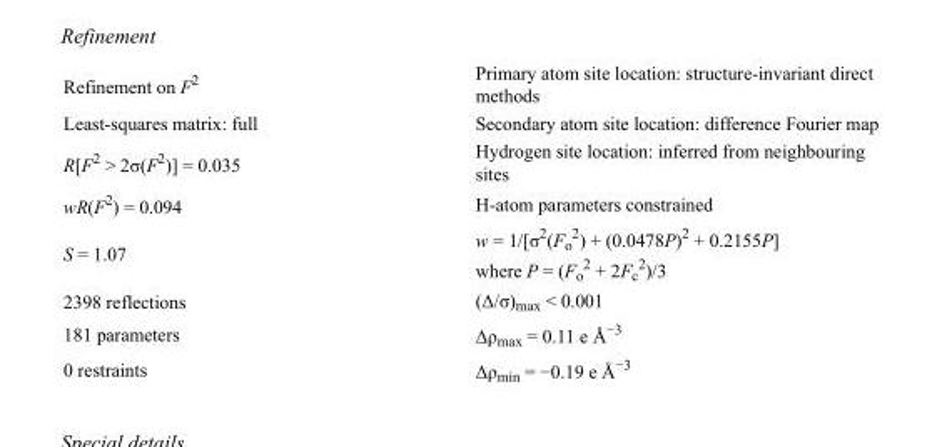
<table><tbody><tr><td>Refinement on F<sup>2</sup></td><td>Primary atom site location: structure-invariant direct methods</td></tr><tr><td>Least-squares matrix: full</td><td>Secondary atom site location: difference Fourier map</td></tr><tr><td>R[F<sup>2</sup> &gt; 2σ(F<sup>2</sup>)] = 0.035</td><td>Hydrogen site location: inferred from neighbouring sites</td></tr><tr><td>wR(F<sup>2</sup>) = 0.094</td><td>H-atom parameters constrained</td></tr><tr><td>S = 1.07</td><td>w = 1/[σ<sup>2</sup>(F<sub>o</sub> <sup>2</sup>) + (0.0478P)<sup>2</sup> + 0.2155P] where P = (F<sub>o</sub> <sup>2</sup> + 2F<sub>c</sub> <sup>2</sup>)/3</td></tr><tr><td>2398 reflections</td><td>(Δ/σ)<sub>max</sub> &lt; 0.001</td></tr><tr><td>181 parameters</td><td>Δρ<sub>max</sub> = 0.11 e Å<sup>−3</sup></td></tr><tr><td>0 restraints</td><td>Δρ<sub>min</sub> = −0.19 e Å<sup>−3</sup></td></tr></tbody></table>